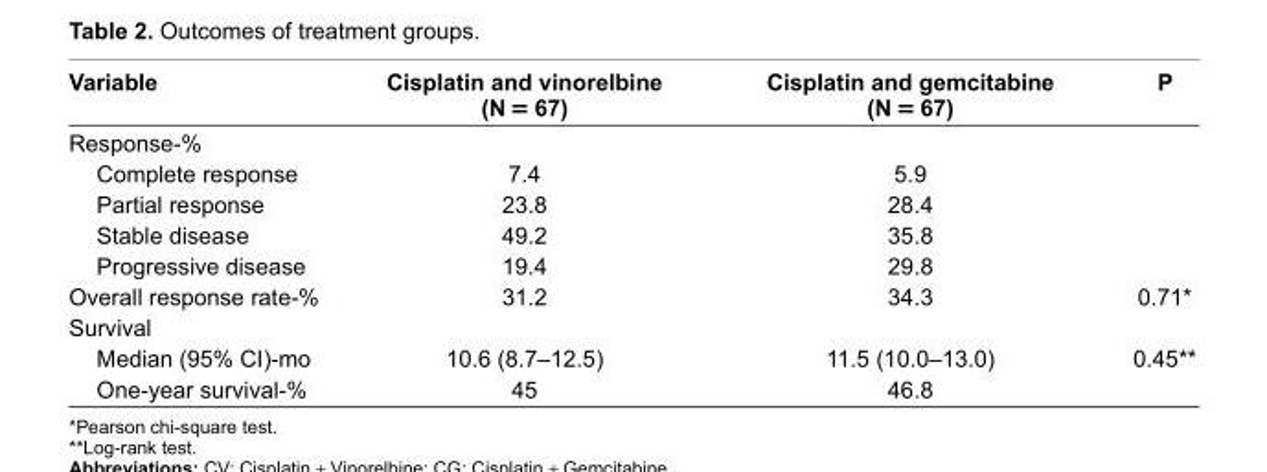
<table><thead><tr><td>Variable</td><td>Cisplatin and vinorelbine (N = 67)</td><td>Cisplatin and gemcitabine (N = 67)</td><td>P</td></tr></thead><tbody><tr><td colspan="4">Response-%</td></tr><tr><td>Complete response</td><td>7.4</td><td>5.9</td><td></td></tr><tr><td>Partial response</td><td>23.8</td><td>28.4</td><td></td></tr><tr><td>Stable disease</td><td>49.2</td><td>35.8</td><td></td></tr><tr><td>Progressive disease</td><td>19.4</td><td>29.8</td><td></td></tr><tr><td>Overall response rate-%</td><td>31.2</td><td>34.3</td><td>0.71*</td></tr><tr><td colspan="4">Survival</td></tr><tr><td>Median (95% CI)-mo</td><td>10.6 (8.7–12.5)</td><td>11.5 (10.0–13.0)</td><td>0.45**</td></tr><tr><td>One-year survival-%</td><td>45</td><td>46.8</td><td></td></tr></tbody></table>